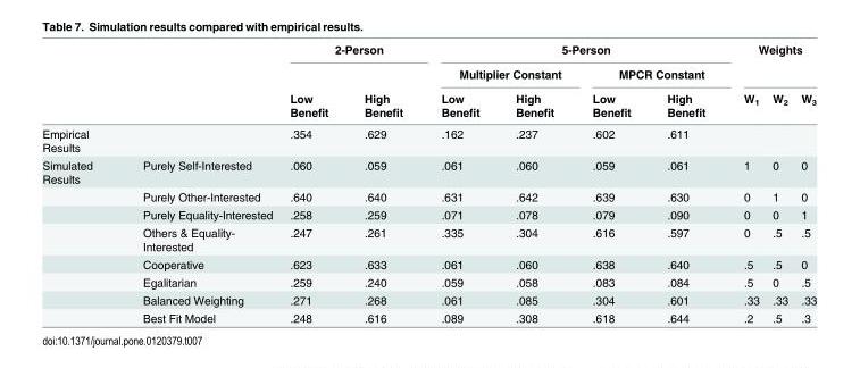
<table><thead><tr><td rowspan="3"></td><td rowspan="3"></td><td colspan="2">2-Person</td><td colspan="4">5-Person</td><td colspan="3">Weights</td></tr><tr><td rowspan="2">Low Benefit</td><td rowspan="2">High Benefit</td><td colspan="2">Multiplier Constant</td><td colspan="2">MPCR Constant</td><td rowspan="2">W<sub>1</sub></td><td rowspan="2">W<sub>2</sub></td><td rowspan="2">W<sub>3</sub></td></tr><tr><td>Low Benefit</td><td>High Benefit</td><td>Low Benefit</td><td>High Benefit</td></tr></thead><tbody><tr><td>Empirical Results</td><td></td><td>.354</td><td>.629</td><td>.162</td><td>.237</td><td>.602</td><td>.611</td><td></td><td></td><td></td></tr><tr><td rowspan="8">Simulated Results</td><td>Purely Self-Interested</td><td>.060</td><td>.059</td><td>.061</td><td>.060</td><td>.059</td><td>.061</td><td>1</td><td>0</td><td>0</td></tr><tr><td>Purely Other-Interested</td><td>.640</td><td>.640</td><td>.631</td><td>.642</td><td>.639</td><td>.630</td><td>0</td><td>1</td><td>0</td></tr><tr><td>Purely Equality-Interested</td><td>.258</td><td>.259</td><td>.071</td><td>.078</td><td>.079</td><td>.090</td><td>0</td><td>0</td><td>1</td></tr><tr><td>Others &amp; Equality- Interested</td><td>.247</td><td>.261</td><td>.335</td><td>.304</td><td>.616</td><td>.597</td><td>0</td><td>.5</td><td>.5</td></tr><tr><td>Cooperative</td><td>.623</td><td>.633</td><td>.061</td><td>.060</td><td>.638</td><td>.640</td><td>.5</td><td>.5</td><td>0</td></tr><tr><td>Egalitarian</td><td>.259</td><td>.240</td><td>.059</td><td>.058</td><td>.083</td><td>.084</td><td>.5</td><td>0</td><td>.5</td></tr><tr><td>Balanced Weighting</td><td>.271</td><td>.268</td><td>.061</td><td>.085</td><td>.304</td><td>.601</td><td>.33</td><td>.33</td><td>.33</td></tr><tr><td>Best Fit Model</td><td>.248</td><td>.616</td><td>.089</td><td>.308</td><td>.618</td><td>.644</td><td>.2</td><td>.5</td><td>.3</td></tr></tbody></table>